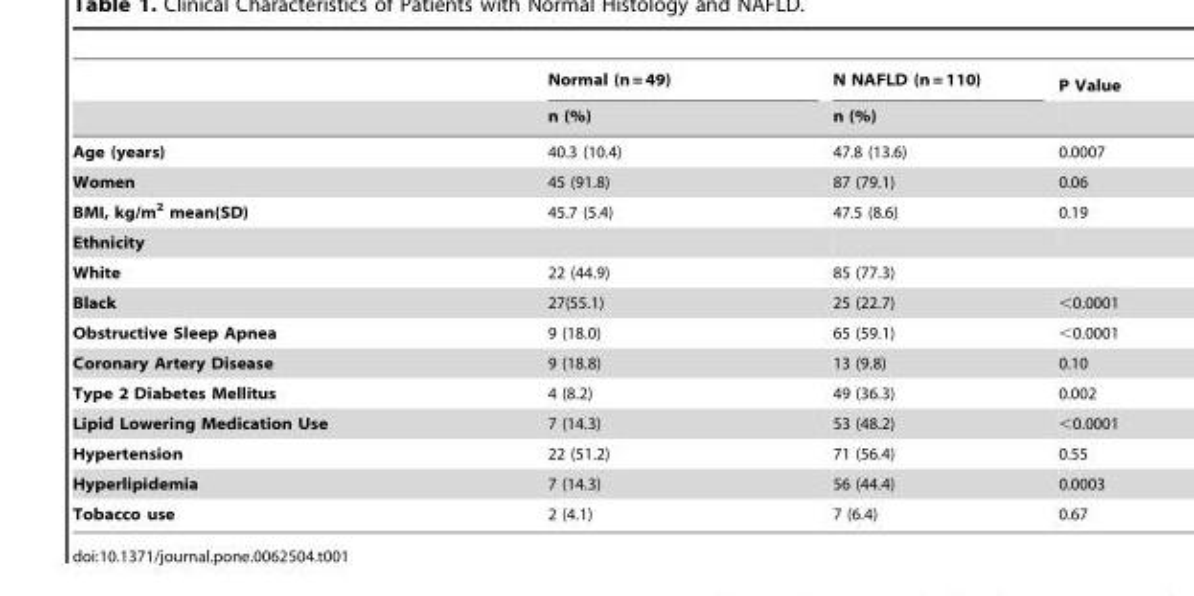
<table><thead><tr><td rowspan="2"></td><td rowspan="2">Normal (n = 49) n (%)</td><td rowspan="2">N NAFLD (n = 110) n (%)</td><td rowspan="2">P Value</td></tr><tr></tr></thead><tbody><tr><td>Age (years)</td><td>40.3 (10.4)</td><td>47.8 (13.6)</td><td>0.0007</td></tr><tr><td>Women</td><td>45 (91.8)</td><td>87 (79.1)</td><td>0.06</td></tr><tr><td>BMI, kg/m<sup>2</sup> mean(SD)</td><td>45.7 (5.4)</td><td>47.5 (8.6)</td><td>0.19</td></tr><tr><td colspan="4">Ethnicity</td></tr><tr><td>White</td><td>22 (44.9)</td><td>85 (77.3)</td><td></td></tr><tr><td>Black</td><td>27(55.1)</td><td>25 (22.7)</td><td>&lt;0.0001</td></tr><tr><td>Obstructive Sleep Apnea</td><td>9 (18.0)</td><td>65 (59.1)</td><td>&lt;0.0001</td></tr><tr><td>Coronary Artery Disease</td><td>9 (18.8)</td><td>13 (9.8)</td><td>0.10</td></tr><tr><td>Type 2 Diabetes Mellitus</td><td>4 (8.2)</td><td>49 (36.3)</td><td>0.002</td></tr><tr><td>Lipid Lowering Medication Use</td><td>7 (14.3)</td><td>53 (48.2)</td><td>&lt;0.0001</td></tr><tr><td>Hypertension</td><td>22 (51.2)</td><td>71 (56.4)</td><td>0.55</td></tr><tr><td>Hyperlipidemia</td><td>7 (14.3)</td><td>56 (44.4)</td><td>0.0003</td></tr><tr><td>Tobacco use</td><td>2 (4.1)</td><td>7 (6.4)</td><td>0.67</td></tr></tbody></table>